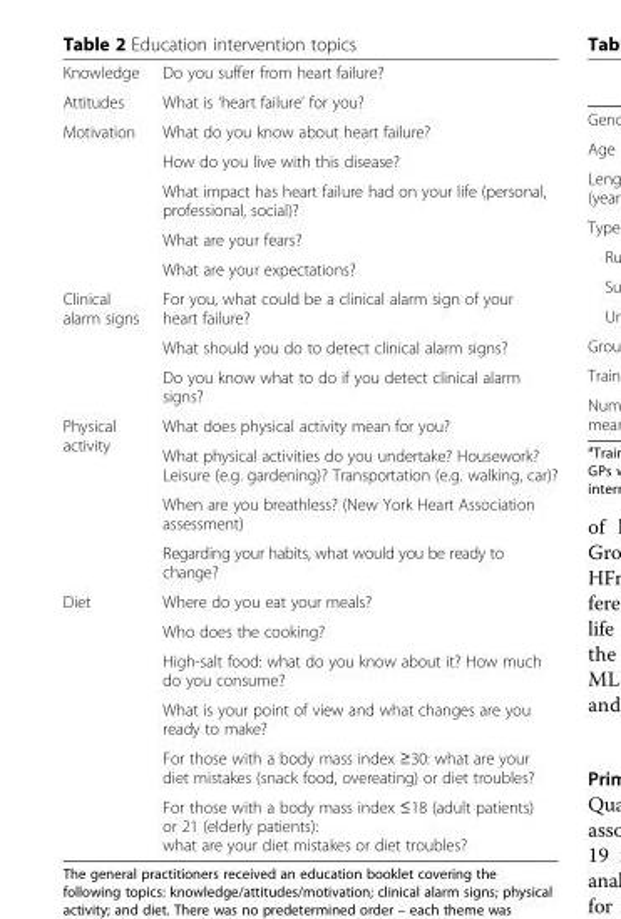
<table><tbody><tr><td>Knowledge</td><td>Do you suffer from heart failure?</td></tr><tr><td>Attitudes</td><td>What is ‘heart failure’ for you?</td></tr><tr><td rowspan="5">Motivation</td><td>What do you know about heart failure?</td></tr><tr><td>How do you live with this disease?</td></tr><tr><td>What impact has heart failure had on your life (personal, professional, social)?</td></tr><tr><td>What are your fears?</td></tr><tr><td>What are your expectations?</td></tr><tr><td rowspan="3">Clinical alarm signs</td><td>For you, what could be a clinical alarm sign of your heart failure?</td></tr><tr><td>What should you do to detect clinical alarm signs?</td></tr><tr><td>Do you know what to do if you detect clinical alarm signs?</td></tr><tr><td rowspan="4">Physical activity</td><td>What does physical activity mean for you?</td></tr><tr><td>What physical activities do you undertake? Housework? Leisure (e.g. gardening)? Transportation (e.g. walking, car)?</td></tr><tr><td>When are you breathless? (New York Heart Association assessment)</td></tr><tr><td>Regarding your habits, what would you be ready to change?</td></tr><tr><td rowspan="6">Diet</td><td>Where do you eat your meals?</td></tr><tr><td>Who does the cooking?</td></tr><tr><td>High-salt food: what do you know about it? How much do you consume?</td></tr><tr><td>What is your point of view and what changes are you ready to make?</td></tr><tr><td>For those with a body mass index ≥30: what are your diet mistakes (snack food, overeating) or diet troubles?</td></tr><tr><td>For those with a body mass index ≤18 (adult patients) or 21 (elderly patients): what are your diet mistakes or diet troubles?</td></tr></tbody></table>